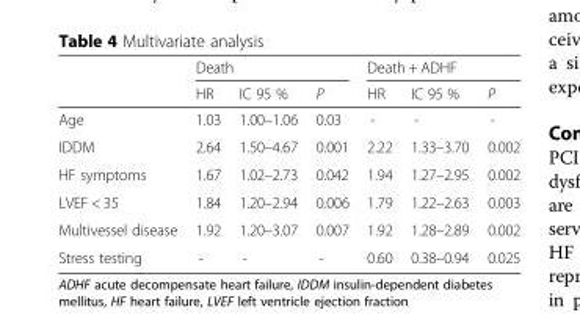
<table><thead><tr><td rowspan="2"></td><td colspan="3">Death</td><td colspan="3">Death + ADHF</td></tr><tr><td>HR</td><td>IC 95 %</td><td>P</td><td>HR</td><td>IC 95 %</td><td>P</td></tr></thead><tbody><tr><td>Age</td><td>1.03</td><td>1.00–1.06</td><td>0.03</td><td>-</td><td>-</td><td>-</td></tr><tr><td>IDDM</td><td>2.64</td><td>1.50–4.67</td><td>0.001</td><td>2.22</td><td>1.33–3.70</td><td>0.002</td></tr><tr><td>HF symptoms</td><td>1.67</td><td>1.02–2.73</td><td>0.042</td><td>1.94</td><td>1.27–2.95</td><td>0.002</td></tr><tr><td>LVEF &lt; 35</td><td>1.84</td><td>1.20–2.94</td><td>0.006</td><td>1.79</td><td>1.22–2.63</td><td>0.003</td></tr><tr><td>Multivessel disease</td><td>1.92</td><td>1.20–3.07</td><td>0.007</td><td>1.92</td><td>1.28–2.89</td><td>0.002</td></tr><tr><td>Stress testing</td><td>-</td><td>-</td><td>-</td><td>0.60</td><td>0.38–0.94</td><td>0.025</td></tr></tbody></table>